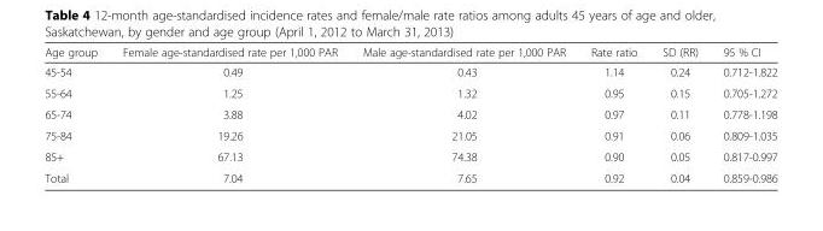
<table><thead><tr><td>Age group</td><td>Female age-standardised rate per 1,000 PAR</td><td>Male age-standardised rate per 1,000 PAR</td><td>Rate ratio</td><td>SD (RR)</td><td>95 % CI</td></tr></thead><tbody><tr><td>45-54</td><td>0.49</td><td>0.43</td><td>1.14</td><td>0.24</td><td>0.712-1.822</td></tr><tr><td>55-64</td><td>1.25</td><td>1.32</td><td>0.95</td><td>0.15</td><td>0.705-1.272</td></tr><tr><td>65-74</td><td>3.88</td><td>4.02</td><td>0.97</td><td>0.11</td><td>0.778-1.198</td></tr><tr><td>75-84</td><td>19.26</td><td>21.05</td><td>0.91</td><td>0.06</td><td>0.809-1.035</td></tr><tr><td>85+</td><td>67.13</td><td>74.38</td><td>0.90</td><td>0.05</td><td>0.817-0.997</td></tr><tr><td>Total</td><td>7.04</td><td>7.65</td><td>0.92</td><td>0.04</td><td>0.859-0.986</td></tr></tbody></table>